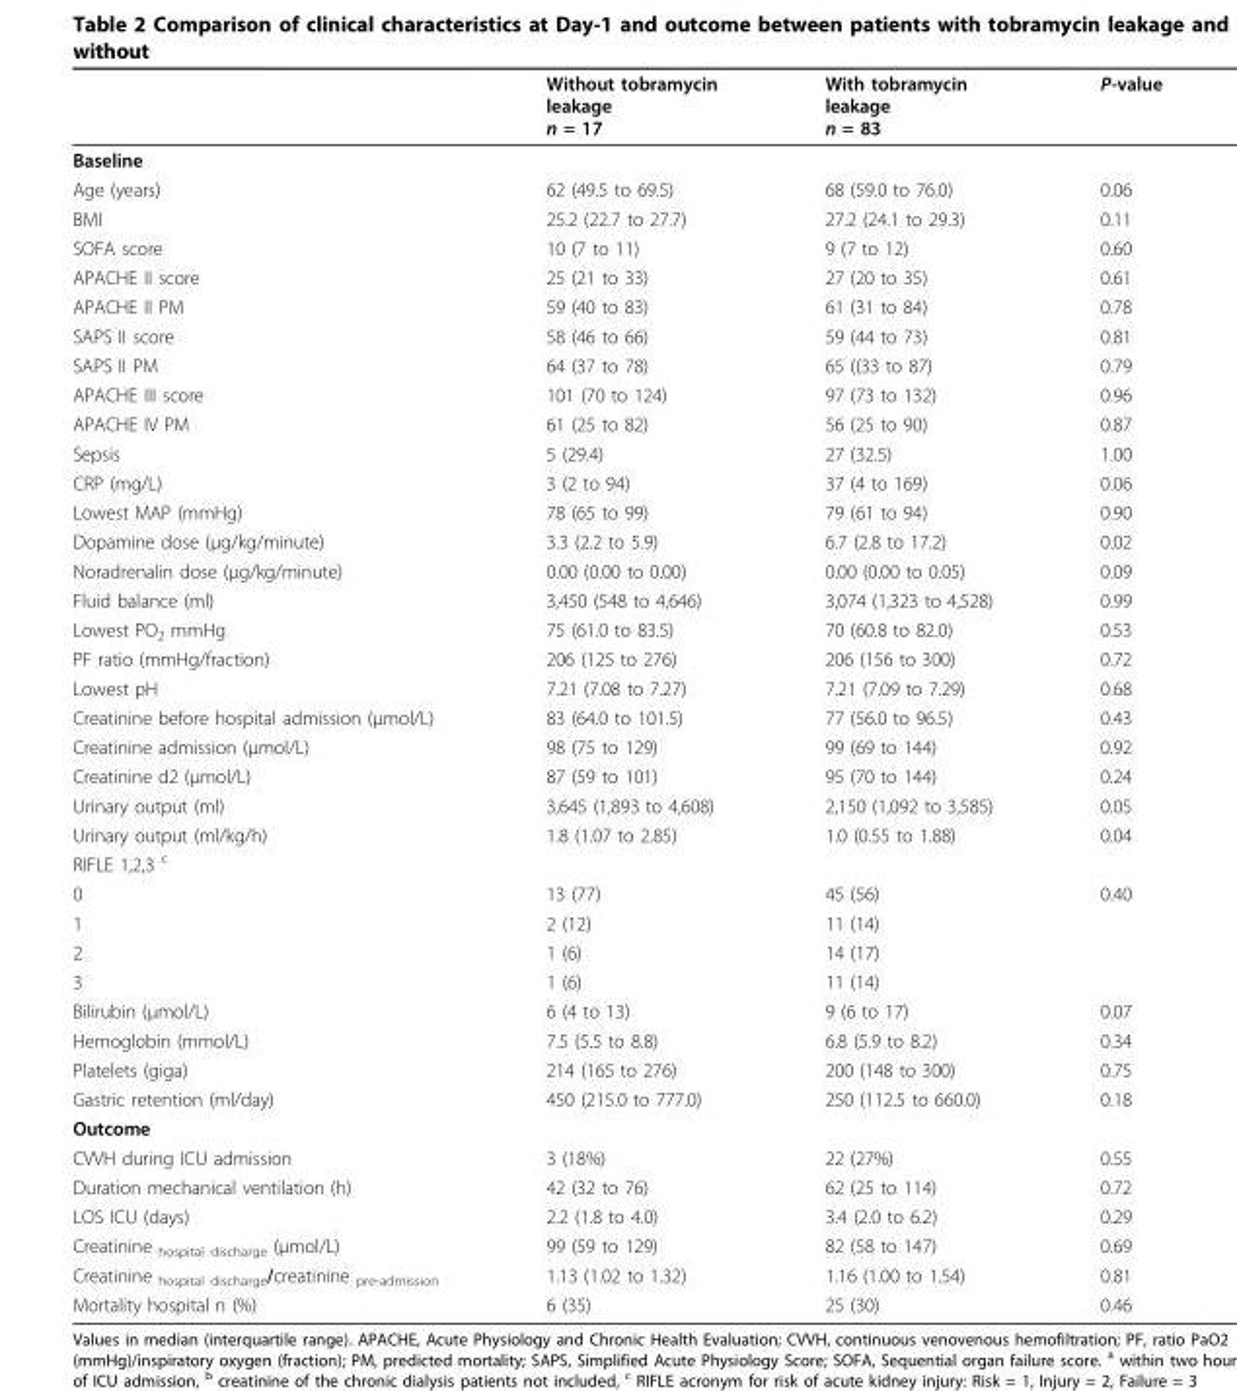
<table><thead><tr><td></td><td>Without tobramycin leakage n = 17</td><td>With tobramycin leakage n = 83</td><td>P-value</td></tr></thead><tbody><tr><td colspan="4">Baseline</td></tr><tr><td>Age (years)</td><td>62 (49.5 to 69.5)</td><td>68 (59.0 to 76.0)</td><td>0.06</td></tr><tr><td>BMI</td><td>25.2 (22.7 to 27.7)</td><td>27.2 (24.1 to 29.3)</td><td>0.11</td></tr><tr><td>SOFA score</td><td>10 (7 to 11)</td><td>9 (7 to 12)</td><td>0.60</td></tr><tr><td>APACHE II score</td><td>25 (21 to 33)</td><td>27 (20 to 35)</td><td>0.61</td></tr><tr><td>APACHE II PM</td><td>59 (40 to 83)</td><td>61 (31 to 84)</td><td>0.78</td></tr><tr><td>SAPS II score</td><td>58 (46 to 66)</td><td>59 (44 to 73)</td><td>0.81</td></tr><tr><td>SAPS II PM</td><td>64 (37 to 78)</td><td>65 ((33 to 87)</td><td>0.79</td></tr><tr><td>APACHE III score</td><td>101 (70 to 124)</td><td>97 (73 to 132)</td><td>0.96</td></tr><tr><td>APACHE IV PM</td><td>61 (25 to 82)</td><td>56 (25 to 90)</td><td>0.87</td></tr><tr><td>Sepsis</td><td>5 (29.4)</td><td>27 (32.5)</td><td>1.00</td></tr><tr><td>CRP (mg/L)</td><td>3 (2 to 94)</td><td>37 (4 to 169)</td><td>0.06</td></tr><tr><td>Lowest MAP (mmHg)</td><td>78 (65 to 99)</td><td>79 (61 to 94)</td><td>0.90</td></tr><tr><td>Dopamine dose (μg/kg/minute)</td><td>3.3 (2.2 to 5.9)</td><td>6.7 (2.8 to 17.2)</td><td>0.02</td></tr><tr><td>Noradrenalin dose (μg/kg/minute)</td><td>0.00 (0.00 to 0.00)</td><td>0.00 (0.00 to 0.05)</td><td>0.09</td></tr><tr><td>Fluid balance (ml)</td><td>3,450 (548 to 4,646)</td><td>3,074 (1,323 to 4,528)</td><td>0.99</td></tr><tr><td>Lowest PO<sub>2</sub> mmHg</td><td>75 (61.0 to 83.5)</td><td>70 (60.8 to 82.0)</td><td>0.53</td></tr><tr><td>PF ratio (mmHg/fraction)</td><td>206 (125 to 276)</td><td>206 (156 to 300)</td><td>0.72</td></tr><tr><td>Lowest pH</td><td>7.21 (7.08 to 7.27)</td><td>7.21 (7.09 to 7.29)</td><td>0.68</td></tr><tr><td>Creatinine before hospital admission (μmol/L)</td><td>83 (64.0 to 101.5)</td><td>77 (56.0 to 96.5)</td><td>0.43</td></tr><tr><td>Creatinine admission (μmol/L)</td><td>98 (75 to 129)</td><td>99 (69 to 144)</td><td>0.92</td></tr><tr><td>Creatinine d2 (μmol/L)</td><td>87 (59 to 101)</td><td>95 (70 to 144)</td><td>0.24</td></tr><tr><td>Urinary output (ml)</td><td>3,645 (1,893 to 4,608)</td><td>2,150 (1,092 to 3,585)</td><td>0.05</td></tr><tr><td>Urinary output (ml/kg/h)</td><td>1.8 (1.07 to 2.85)</td><td>1.0 (0.55 to 1.88)</td><td>0.04</td></tr><tr><td colspan="4">RIFLE 1,2,3 <sup>c</sup></td></tr><tr><td>0</td><td>13 (77)</td><td>45 (56)</td><td>0.40</td></tr><tr><td>1</td><td>2 (12)</td><td>11 (14)</td><td></td></tr><tr><td>2</td><td>1 (6)</td><td>14 (17)</td><td></td></tr><tr><td>3</td><td>1 (6)</td><td>11 (14)</td><td></td></tr><tr><td>Bilirubin (μmol/L)</td><td>6 (4 to 13)</td><td>9 (6 to 17)</td><td>0.07</td></tr><tr><td>Hemoglobin (mmol/L)</td><td>7.5 (5.5 to 8.8)</td><td>6.8 (5.9 to 8.2)</td><td>0.34</td></tr><tr><td>Platelets (giga)</td><td>214 (165 to 276)</td><td>200 (148 to 300)</td><td>0.75</td></tr><tr><td>Gastric retention (ml/day)</td><td>450 (215.0 to 777.0)</td><td>250 (112.5 to 660.0)</td><td>0.18</td></tr><tr><td colspan="4">Outcome</td></tr><tr><td>CVVH during ICU admission</td><td>3 (18%)</td><td>22 (27%)</td><td>0.55</td></tr><tr><td>Duration mechanical ventilation (h)</td><td>42 (32 to 76)</td><td>62 (25 to 114)</td><td>0.72</td></tr><tr><td>LOS ICU (days)</td><td>2.2 (1.8 to 4.0)</td><td>3.4 (2.0 to 6.2)</td><td>0.29</td></tr><tr><td>Creatinine <sub>hospital discharge</sub> (μmol/L)</td><td>99 (59 to 129)</td><td>82 (58 to 147)</td><td>0.69</td></tr><tr><td>Creatinine <sub>hospital discharge</sub>/creatinine <sub>pre-admission</sub></td><td>1.13 (1.02 to 1.32)</td><td>1.16 (1.00 to 1.54)</td><td>0.81</td></tr><tr><td>Mortality hospital n (%)</td><td>6 (35)</td><td>25 (30)</td><td>0.46</td></tr></tbody></table>